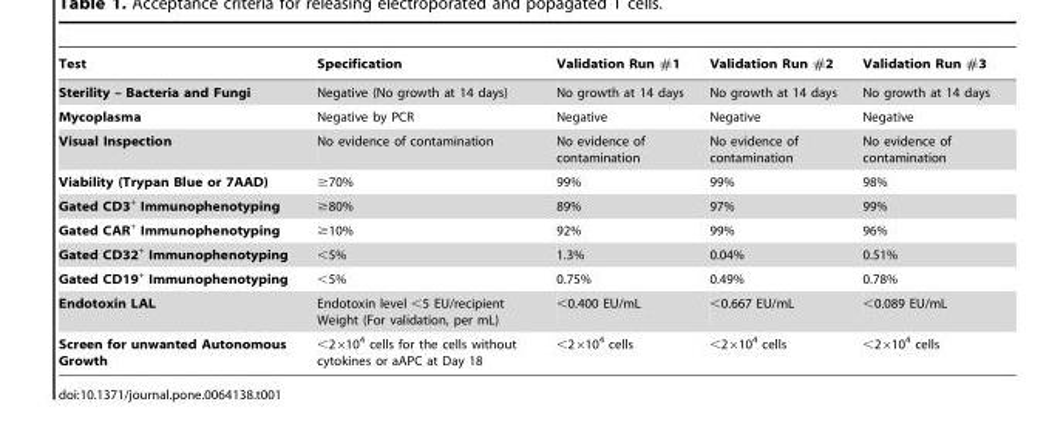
<table><thead><tr><td>Test</td><td>Specification</td><td>Validation Run #1</td><td>Validation Run #2</td><td>Validation Run #3</td></tr></thead><tbody><tr><td>Sterility – Bacteria and Fungi</td><td>Negative (No growth at 14 days)</td><td>No growth at 14 days</td><td>No growth at 14 days</td><td>No growth at 14 days</td></tr><tr><td>Mycoplasma</td><td>Negative by PCR</td><td>Negative</td><td>Negative</td><td>Negative</td></tr><tr><td>Visual Inspection</td><td>No evidence of contamination</td><td>No evidence of contamination</td><td>No evidence of contamination</td><td>No evidence of contamination</td></tr><tr><td>Viability (Trypan Blue or 7AAD)</td><td>≥70%</td><td>99%</td><td>99%</td><td>98%</td></tr><tr><td>Gated CD3<sup>+</sup> Immunophenotyping</td><td>≥80%</td><td>89%</td><td>97%</td><td>99%</td></tr><tr><td>Gated CAR<sup>+</sup> Immunophenotyping</td><td>≥10%</td><td>92%</td><td>99%</td><td>96%</td></tr><tr><td>Gated CD32<sup>+</sup> Immunophenotyping</td><td>&lt;5%</td><td>1.3%</td><td>0.04%</td><td>0.51%</td></tr><tr><td>Gated CD19<sup>+</sup> Immunophenotyping</td><td>&lt;5%</td><td>0.75%</td><td>0.49%</td><td>0.78%</td></tr><tr><td>Endotoxin LAL</td><td>Endotoxin level &lt;5 EU/recipient Weight (For validation, per mL)</td><td>&lt;0.400 EU/mL</td><td>&lt;0.667 EU/mL</td><td>&lt;0.089 EU/mL</td></tr><tr><td>Screen for unwanted Autonomous Growth</td><td>&lt;2×10<sup>4</sup> cells for the cells without cytokines or aAPC at Day 18</td><td>&lt;2×10<sup>4</sup> cells</td><td>&lt;2×10<sup>4</sup> cells</td><td>&lt;2×10<sup>4</sup> cells</td></tr></tbody></table>